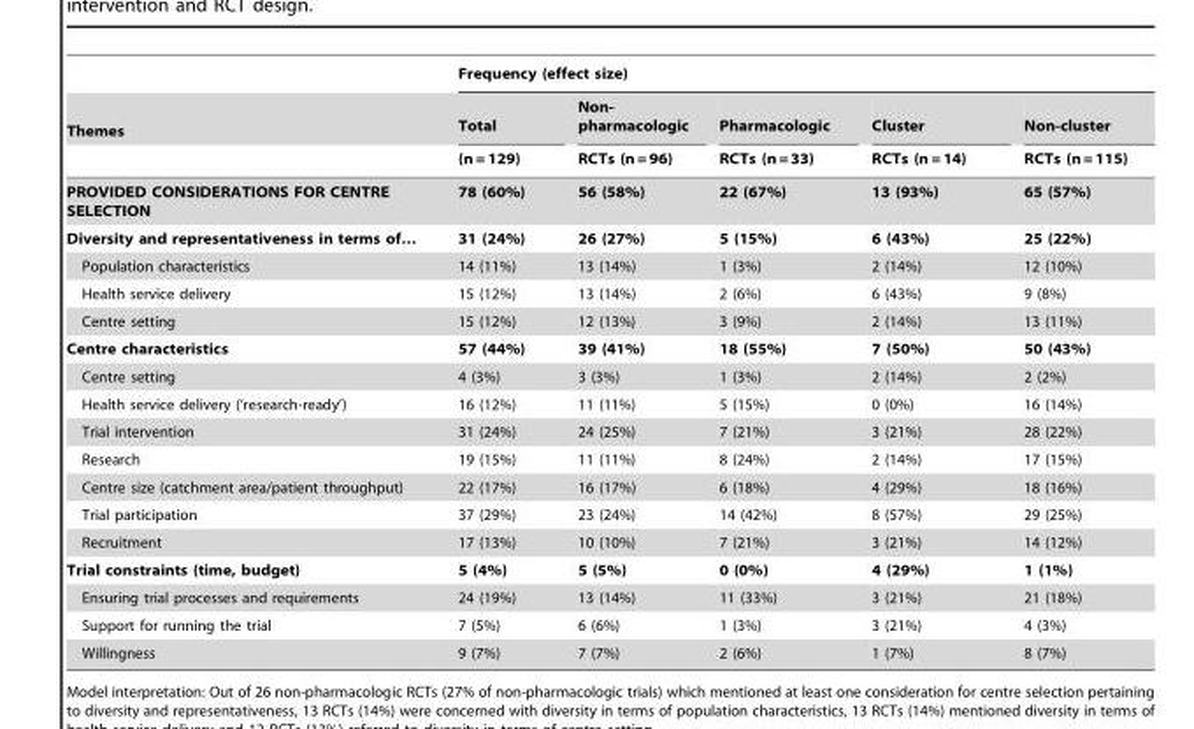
<table><thead><tr><td rowspan="3">Themes</td><td colspan="5">Frequency (effect size)</td></tr><tr><td rowspan="2">Total (n = 129)</td><td rowspan="2">Non- pharmacologic RCTs (n = 96)</td><td rowspan="2">Pharmacologic RCTs (n = 33)</td><td rowspan="2">Cluster RCTs (n = 14)</td><td rowspan="2">Non-cluster RCTs (n = 115)</td></tr><tr></tr></thead><tbody><tr><td>PROVIDED CONSIDERATIONS FOR CENTRE SELECTION</td><td>78 (60%)</td><td>56 (58%)</td><td>22 (67%)</td><td>13 (93%)</td><td>65 (57%)</td></tr><tr><td>Diversity and representativeness in terms of…</td><td>31 (24%)</td><td>26 (27%)</td><td>5 (15%)</td><td>6 (43%)</td><td>25 (22%)</td></tr><tr><td>Population characteristics</td><td>14 (11%)</td><td>13 (14%)</td><td>1 (3%)</td><td>2 (14%)</td><td>12 (10%)</td></tr><tr><td>Health service delivery</td><td>15 (12%)</td><td>13 (14%)</td><td>2 (6%)</td><td>6 (43%)</td><td>9 (8%)</td></tr><tr><td>Centre setting</td><td>15 (12%)</td><td>12 (13%)</td><td>3 (9%)</td><td>2 (14%)</td><td>13 (11%)</td></tr><tr><td>Centre characteristics</td><td>57 (44%)</td><td>39 (41%)</td><td>18 (55%)</td><td>7 (50%)</td><td>50 (43%)</td></tr><tr><td>Centre setting</td><td>4 (3%)</td><td>3 (3%)</td><td>1 (3%)</td><td>2 (14%)</td><td>2 (2%)</td></tr><tr><td>Health service delivery (‘research-ready’)</td><td>16 (12%)</td><td>11 (11%)</td><td>5 (15%)</td><td>0 (0%)</td><td>16 (14%)</td></tr><tr><td>Trial intervention</td><td>31 (24%)</td><td>24 (25%)</td><td>7 (21%)</td><td>3 (21%)</td><td>28 (22%)</td></tr><tr><td>Research</td><td>19 (15%)</td><td>11 (11%)</td><td>8 (24%)</td><td>2 (14%)</td><td>17 (15%)</td></tr><tr><td>Centre size (catchment area/patient throughput)</td><td>22 (17%)</td><td>16 (17%)</td><td>6 (18%)</td><td>4 (29%)</td><td>18 (16%)</td></tr><tr><td>Trial participation</td><td>37 (29%)</td><td>23 (24%)</td><td>14 (42%)</td><td>8 (57%)</td><td>29 (25%)</td></tr><tr><td>Recruitment</td><td>17 (13%)</td><td>10 (10%)</td><td>7 (21%)</td><td>3 (21%)</td><td>14 (12%)</td></tr><tr><td>Trial constraints (time, budget)</td><td>5 (4%)</td><td>5 (5%)</td><td>0 (0%)</td><td>4 (29%)</td><td>1 (1%)</td></tr><tr><td>Ensuring trial processes and requirements</td><td>24 (19%)</td><td>13 (14%)</td><td>11 (33%)</td><td>3 (21%)</td><td>21 (18%)</td></tr><tr><td>Support for running the trial</td><td>7 (5%)</td><td>6 (6%)</td><td>1 (3%)</td><td>3 (21%)</td><td>4 (3%)</td></tr><tr><td>Willingness</td><td>9 (7%)</td><td>7 (7%)</td><td>2 (6%)</td><td>1 (7%)</td><td>8 (7%)</td></tr></tbody></table>